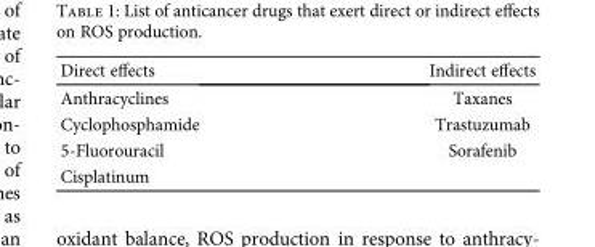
<table><thead><tr><td>Direct effects</td><td>Indirect effects</td></tr></thead><tbody><tr><td>Anthracyclines</td><td>Taxanes</td></tr><tr><td>Cyclophosphamide</td><td>Trastuzumab</td></tr><tr><td>5-Fluorouracil</td><td>Sorafenib</td></tr><tr><td>Cisplatinum</td><td></td></tr></tbody></table>